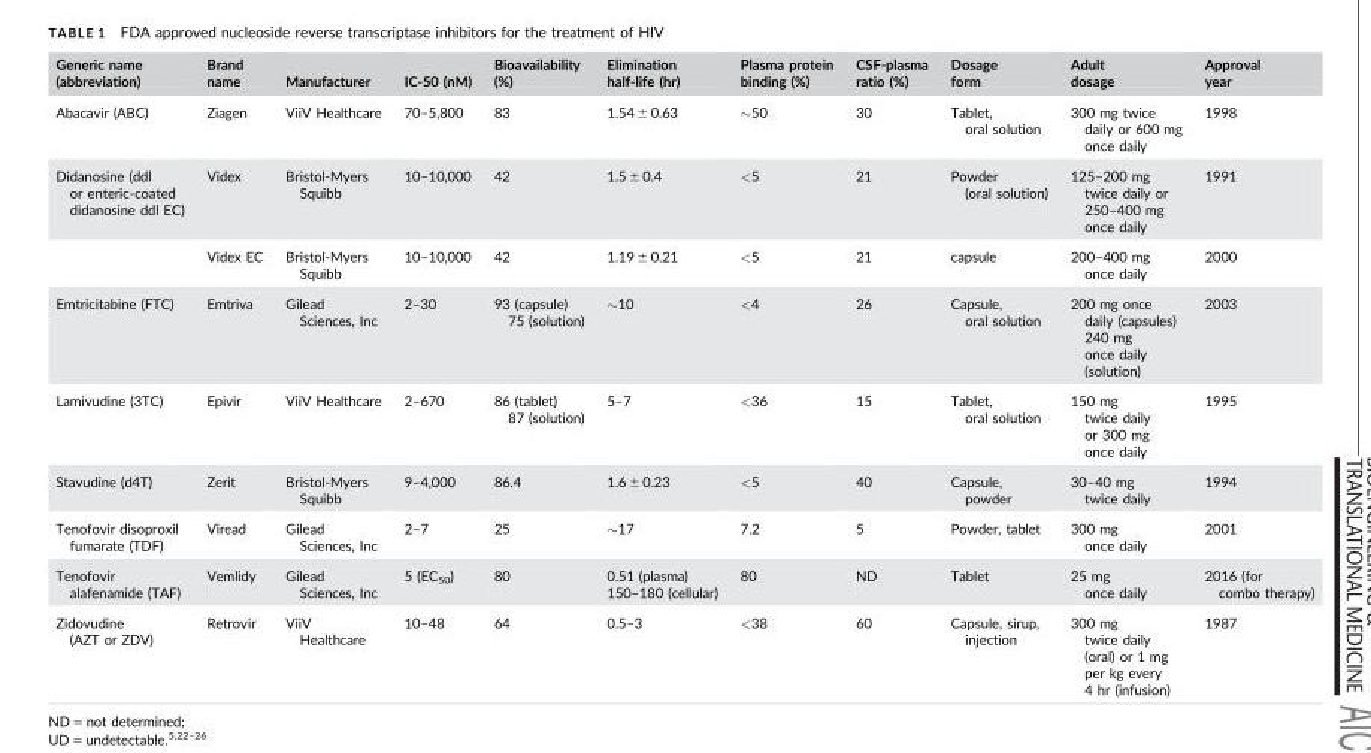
<table><thead><tr><td>Generic name (abbreviation)</td><td>Brand name</td><td>Manufacturer</td><td>IC-50 (nM)</td><td>Bioavailability (%)</td><td>Elimination half-life (hr)</td><td>Plasma protein binding (%)</td><td>CSF-plasma ratio (%)</td><td>Dosage form</td><td>Adult dosage</td><td>Approval year</td></tr></thead><tbody><tr><td>Abacavir (ABC)</td><td>Ziagen</td><td>ViiV Healthcare</td><td>70–5,800</td><td>83</td><td>1.54 ± 0.63</td><td>∼50</td><td>30</td><td>Tablet, oral solution</td><td>300 mg twice daily or 600 mg once daily</td><td>1998</td></tr><tr><td rowspan="2">Didanosine (ddl or enteric-coated didanosine ddl EC)</td><td>Videx</td><td>Bristol-Myers Squibb</td><td>10–10,000</td><td>42</td><td>1.5 ± 0.4</td><td>&lt;5</td><td>21</td><td>Powder (oral solution)</td><td>125–200 mg twice daily or 250–400 mg once daily</td><td>1991</td></tr><tr><td>Videx EC</td><td>Bristol-Myers Squibb</td><td>10–10,000</td><td>42</td><td>1.19 ± 0.21</td><td>&lt;5</td><td>21</td><td>capsule</td><td>200–400 mg once daily</td><td>2000</td></tr><tr><td>Emtricitabine (FTC)</td><td>Emtriva</td><td>Gilead Sciences, Inc</td><td>2–30</td><td>93 (capsule) 75 (solution)</td><td>∼10</td><td>&lt;4</td><td>26</td><td>Capsule, oral solution</td><td>200 mg once daily (capsules) 240 mg once daily (solution)</td><td>2003</td></tr><tr><td>Lamivudine (3TC)</td><td>Epivir</td><td>ViiV Healthcare</td><td>2–670</td><td>86 (tablet) 87 (solution)</td><td>5–7</td><td>&lt;36</td><td>15</td><td>Tablet, oral solution</td><td>150 mg twice daily or 300 mg once daily</td><td>1995</td></tr><tr><td>Stavudine (d4T)</td><td>Zerit</td><td>Bristol-Myers Squibb</td><td>9–4,000</td><td>86.4</td><td>1.6 ± 0.23</td><td>&lt;5</td><td>40</td><td>Capsule, powder</td><td>30–40 mg twice daily</td><td>1994</td></tr><tr><td>Tenofovir disoproxil fumarate (TDF)</td><td>Viread</td><td>Gilead Sciences, Inc</td><td>2–7</td><td>25</td><td>∼17</td><td>7.2</td><td>5</td><td>Powder, tablet</td><td>300 mg once daily</td><td>2001</td></tr><tr><td>Tenofovir alafenamide (TAF)</td><td>Vemlidy</td><td>Gilead Sciences, Inc</td><td>5 (EC<sub>50</sub>)</td><td>80</td><td>0.51 (plasma) 150–180 (cellular)</td><td>80</td><td>ND</td><td>Tablet</td><td>25 mg once daily</td><td>2016 (for combo therapy)</td></tr><tr><td>Zidovudine (AZT or ZDV)</td><td>Retrovir</td><td>ViiV Healthcare</td><td>10–48</td><td>64</td><td>0.5–3</td><td>&lt;38</td><td>60</td><td>Capsule, sirup, injection</td><td>300 mg twice daily (oral) or 1 mg per kg every 4 hr (infusion)</td><td>1987</td></tr></tbody></table>